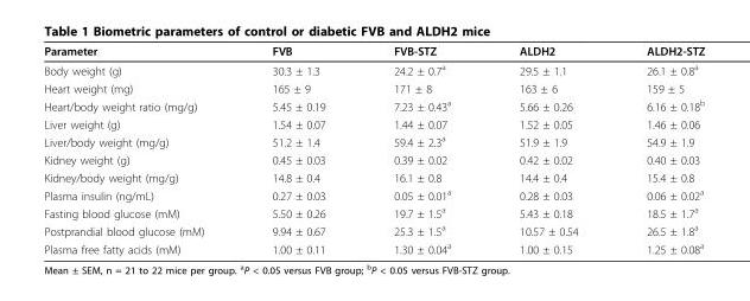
<table><thead><tr><td>Parameter</td><td>FVB</td><td>FVB-STZ</td><td>ALDH2</td><td>ALDH2-STZ</td></tr></thead><tbody><tr><td>Body weight (g)</td><td>30.3 ± 1.3</td><td>24.2 ± 0.7a</td><td>29.5 ± 1.1</td><td>26.1 ± 0.8a</td></tr><tr><td>Heart weight (mg)</td><td>165 ± 9</td><td>171 ± 8</td><td>163 ± 6</td><td>159 ± 5</td></tr><tr><td>Heart/body weight ratio (mg/g)</td><td>5.45 ± 0.19</td><td>7.23 ± 0.43a</td><td>5.66 ± 0.26</td><td>6.16 ± 0.18b</td></tr><tr><td>Liver weight (g)</td><td>1.54 ± 0.07</td><td>1.44 ± 0.07</td><td>1.52 ± 0.05</td><td>1.46 ± 0.06</td></tr><tr><td>Liver/body weight (mg/g)</td><td>51.2 ± 1.4</td><td>59.4 ± 2.3a</td><td>51.9 ± 1.9</td><td>54.9 ± 1.9</td></tr><tr><td>Kidney weight (g)</td><td>0.45 ± 0.03</td><td>0.39 ± 0.02</td><td>0.42 ± 0.02</td><td>0.40 ± 0.03</td></tr><tr><td>Kidney/body weight (mg/g)</td><td>14.8 ± 0.4</td><td>16.1 ± 0.8</td><td>14.4 ± 0.4</td><td>15.4 ± 0.8</td></tr><tr><td>Plasma insulin (ng/mL)</td><td>0.27 ± 0.03</td><td>0.05 ± 0.01a</td><td>0.28 ± 0.03</td><td>0.06 ± 0.02a</td></tr><tr><td>Fasting blood glucose (mM)</td><td>5.50 ± 0.26</td><td>19.7 ± 1.5a</td><td>5.43 ± 0.18</td><td>18.5 ± 1.7a</td></tr><tr><td>Postprandial blood glucose (mM)</td><td>9.94 ± 0.67</td><td>25.3 ± 1.5a</td><td>10.57 ± 0.54</td><td>26.5 ± 1.8a</td></tr><tr><td>Plasma free fatty acids (mM)</td><td>1.00 ± 0.11</td><td>1.30 ± 0.04a</td><td>1.00 ± 0.15</td><td>1.25 ± 0.08a</td></tr></tbody></table>